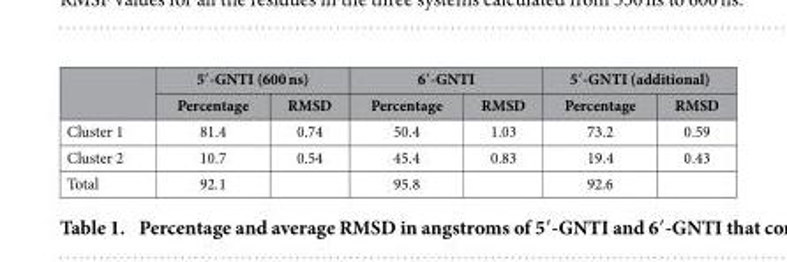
<table><thead><tr><td rowspan="2"></td><td colspan="2">5′-GNTI (600 ns)</td><td colspan="2">6′-GNTI</td><td colspan="2">5′-GNTI (additional)</td></tr><tr><td>Percentage</td><td>RMSD</td><td>Percentage</td><td>RMSD</td><td>Percentage</td><td>RMSD</td></tr></thead><tbody><tr><td>Cluster 1</td><td>81.4</td><td>0.74</td><td>50.4</td><td>1.03</td><td>73.2</td><td>0.59</td></tr><tr><td>Cluster 2</td><td>10.7</td><td>0.54</td><td>45.4</td><td>0.83</td><td>19.4</td><td>0.43</td></tr><tr><td>Total</td><td>92.1</td><td></td><td>95.8</td><td></td><td>92.6</td><td></td></tr></tbody></table>